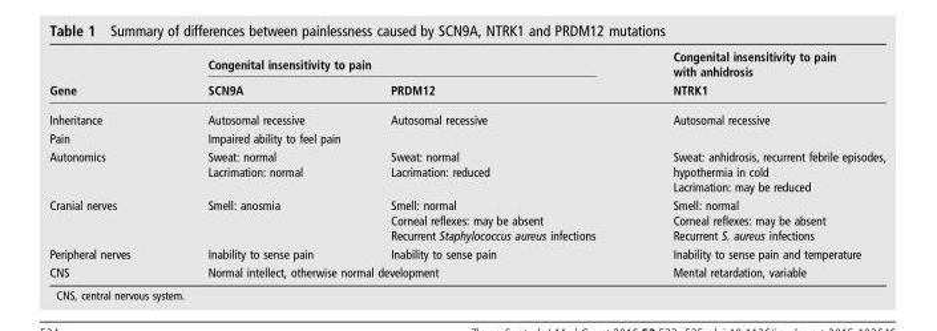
<table><thead><tr><td rowspan="2">Gene</td><td colspan="2">Congenital insensitivity to pain</td><td rowspan="2">Congenital insensitivity to pain with anhidrosis NTRK1</td></tr><tr><td>SCN9A</td><td>PRDM12</td></tr></thead><tbody><tr><td>Inheritance</td><td>Autosomal recessive</td><td>Autosomal recessive</td><td>Autosomal recessive</td></tr><tr><td>Pain</td><td colspan="3">Impaired ability to feel pain</td></tr><tr><td>Autonomics</td><td>Sweat: normal Lacrimation: normal</td><td>Sweat: normal Lacrimation: reduced</td><td>Sweat: anhidrosis, recurrent febrile episodes, hypothermia in cold Lacrimation: may be reduced</td></tr><tr><td>Cranial nerves</td><td>Smell: anosmia</td><td>Smell: normal Corneal reflexes: may be absent Recurrent Staphylococcus aureus infections</td><td>Smell: normal Corneal reflexes: may be absent Recurrent S. aureus infections</td></tr><tr><td>Peripheral nerves</td><td>Inability to sense pain</td><td>Inability to sense pain</td><td>Inability to sense pain and temperature</td></tr><tr><td>CNS</td><td colspan="2">Normal intellect, otherwise normal development</td><td>Mental retardation, variable</td></tr></tbody></table>